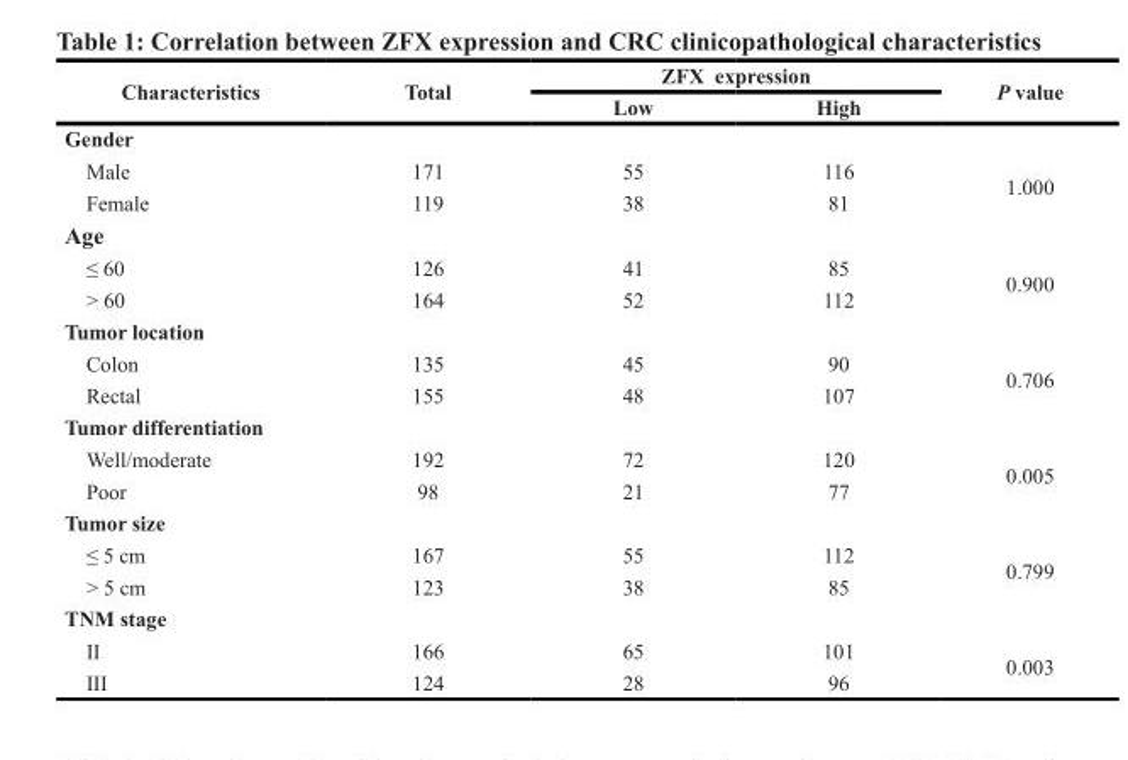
<table><thead><tr><td rowspan="2">Characteristics</td><td rowspan="2">Total</td><td colspan="2">ZFX expression</td><td rowspan="2">P value</td></tr><tr><td>Low</td><td>High</td></tr></thead><tbody><tr><td colspan="5">Gender</td></tr><tr><td>Male</td><td>171</td><td>55</td><td>116</td><td rowspan="2">1.000</td></tr><tr><td>Female</td><td>119</td><td>38</td><td>81</td></tr><tr><td colspan="5">Age</td></tr><tr><td>≤ 60</td><td>126</td><td>41</td><td>85</td><td rowspan="2">0.900</td></tr><tr><td>&gt; 60</td><td>164</td><td>52</td><td>112</td></tr><tr><td colspan="5">Tumor location</td></tr><tr><td>Colon</td><td>135</td><td>45</td><td>90</td><td rowspan="2">0.706</td></tr><tr><td>Rectal</td><td>155</td><td>48</td><td>107</td></tr><tr><td colspan="5">Tumor differentiation</td></tr><tr><td>Well/moderate</td><td>192</td><td>72</td><td>120</td><td rowspan="2">0.005</td></tr><tr><td>Poor</td><td>98</td><td>21</td><td>77</td></tr><tr><td colspan="5">Tumor size</td></tr><tr><td>≤ 5 cm</td><td>167</td><td>55</td><td>112</td><td rowspan="2">0.799</td></tr><tr><td>&gt; 5 cm</td><td>123</td><td>38</td><td>85</td></tr><tr><td colspan="5">TNM stage</td></tr><tr><td>II</td><td>166</td><td>65</td><td>101</td><td rowspan="2">0.003</td></tr><tr><td>III</td><td>124</td><td>28</td><td>96</td></tr></tbody></table>